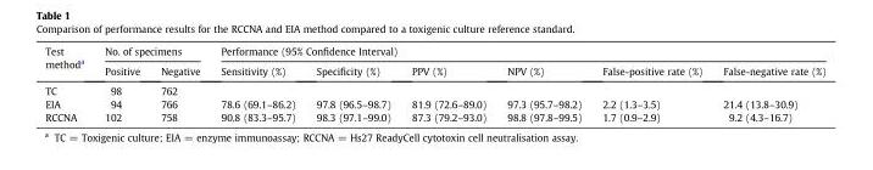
<table><thead><tr><td rowspan="2">Test method<sup>a</sup></td><td colspan="2">No. of specimens</td><td colspan="6">Performance (95% Confidence Interval)</td></tr><tr><td>Positive</td><td>Negative</td><td>Sensitivity (%)</td><td>Specificity (%)</td><td>PPV (%)</td><td>NPV (%)</td><td>False-positive rate (%)</td><td>False-negative rate (%)</td></tr></thead><tbody><tr><td>TC</td><td>98</td><td>762</td><td></td><td></td><td></td><td></td><td></td><td></td></tr><tr><td>EIA</td><td>94</td><td>766</td><td>78.6 (69.1–86.2)</td><td>97.8 (96.5–98.7)</td><td>81.9 (72.6–89.0)</td><td>97.3 (95.7–98.2)</td><td>2.2 (1.3–3.5)</td><td>21.4 (13.8–30.9)</td></tr><tr><td>RCCNA</td><td>102</td><td>758</td><td>90.8 (83.3–95.7)</td><td>98.3 (97.1–99.0)</td><td>87.3 (79.2–93.0)</td><td>98.8 (97.8–99.5)</td><td>1.7 (0.9–2.9)</td><td>9.2 (4.3–16.7)</td></tr></tbody></table>